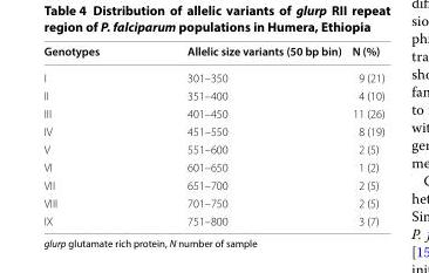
<table><thead><tr><td>Genotypes</td><td>Allelic size variants (50 bp bin)</td><td>N (%)</td></tr></thead><tbody><tr><td>I</td><td>301–350</td><td>9 (21)</td></tr><tr><td>II</td><td>351–400</td><td>4 (10)</td></tr><tr><td>III</td><td>401–450</td><td>11 (26)</td></tr><tr><td>IV</td><td>451–550</td><td>8 (19)</td></tr><tr><td>V</td><td>551–600</td><td>2 (5)</td></tr><tr><td>VI</td><td>601–650</td><td>1 (2)</td></tr><tr><td>VII</td><td>651–700</td><td>2 (5)</td></tr><tr><td>VIII</td><td>701–750</td><td>2 (5)</td></tr><tr><td>IX</td><td>751–800</td><td>3 (7)</td></tr></tbody></table>